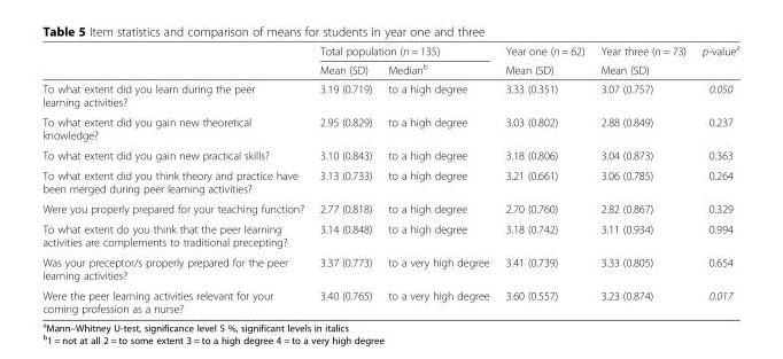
<table><thead><tr><td rowspan="2"></td><td colspan="2">Total population (n = 135)</td><td rowspan="2">Year one (n = 62) Mean (SD)</td><td rowspan="2">Year three (n = 73) Mean (SD)</td><td rowspan="2">p-value<sup>a</sup></td></tr><tr><td>Mean (SD)</td><td>Median<sup>b</sup></td></tr></thead><tbody><tr><td>To what extent did you learn during the peer learning activities?</td><td>3.19 (0.719)</td><td>to a high degree</td><td>3.33 (0.351)</td><td>3.07 (0.757)</td><td>0.050</td></tr><tr><td>To what extent did you gain new theoretical knowledge?</td><td>2.95 (0.829)</td><td>to a high degree</td><td>3.03 (0.802)</td><td>2.88 (0.849)</td><td>0.237</td></tr><tr><td>To what extent did you gain new practical skills?</td><td>3.10 (0.843)</td><td>to a high degree</td><td>3.18 (0.806)</td><td>3.04 (0.873)</td><td>0.363</td></tr><tr><td>To what extent did you think theory and practice have been merged during peer learning activities?</td><td>3.13 (0.733)</td><td>to a high degree</td><td>3.21 (0.661)</td><td>3.06 (0.785)</td><td>0.264</td></tr><tr><td>Were you properly prepared for your teaching function?</td><td>2.77 (0.818)</td><td>to a high degree</td><td>2.70 (0.760)</td><td>2.82 (0.867)</td><td>0.329</td></tr><tr><td>To what extent do you think that the peer learning activities are complements to traditional precepting?</td><td>3.14 (0.848)</td><td>to a high degree</td><td>3.18 (0.742)</td><td>3.11 (0.934)</td><td>0.994</td></tr><tr><td>Was your preceptor/s properly prepared for the peer learning activities?</td><td>3.37 (0.773)</td><td>to a very high degree</td><td>3.41 (0.739)</td><td>3.33 (0.805)</td><td>0.654</td></tr><tr><td>Were the peer learning activities relevant for your coming profession as a nurse?</td><td>3.40 (0.765)</td><td>to a very high degree</td><td>3.60 (0.557)</td><td>3.23 (0.874)</td><td>0.017</td></tr></tbody></table>